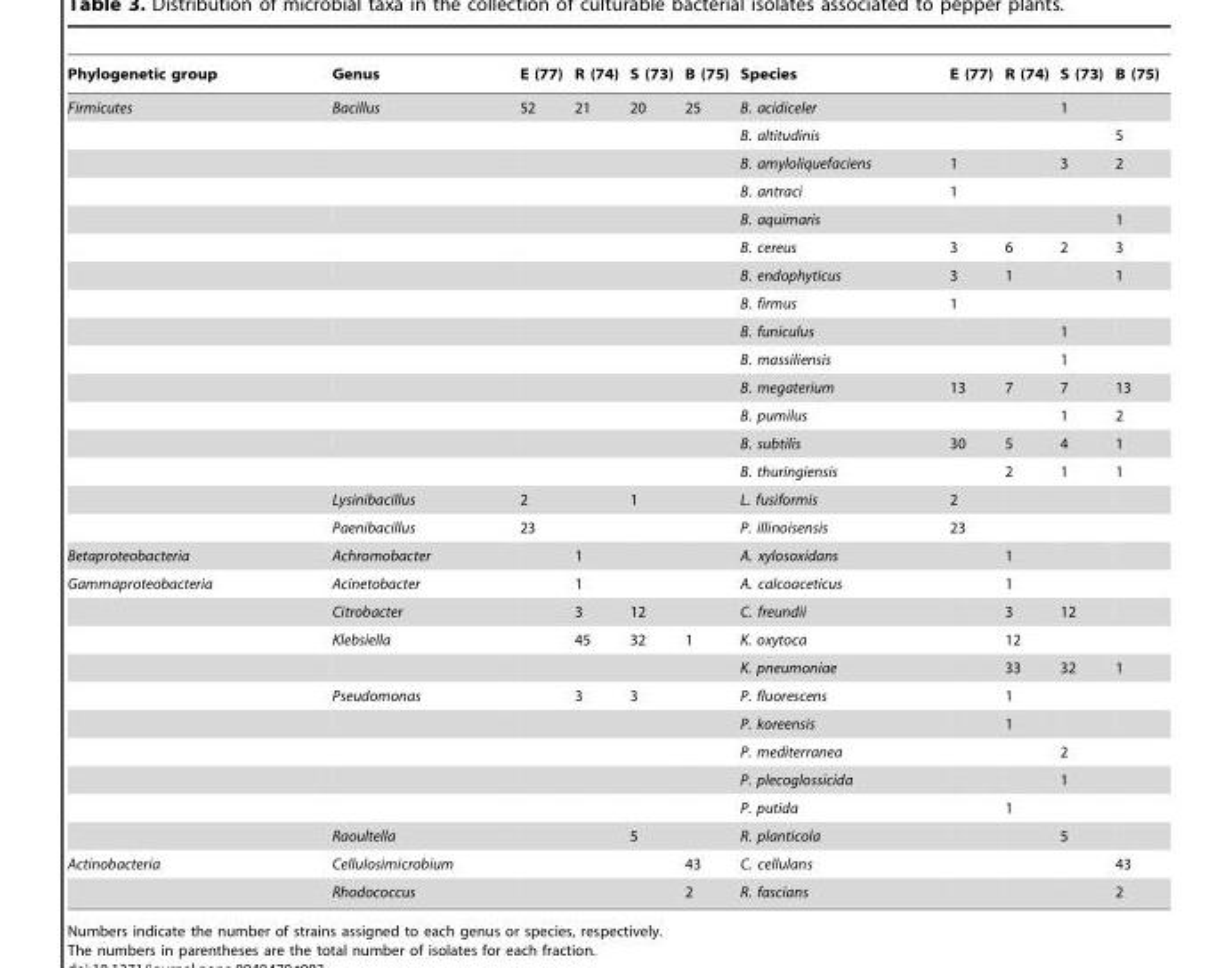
<table><thead><tr><td>Phylogenetic group</td><td>Genus</td><td>E (77)</td><td>R (74)</td><td>S (73)</td><td>B (75)</td><td>Species</td><td>E (77)</td><td>R (74)</td><td>S (73)</td><td>B (75)</td></tr></thead><tbody><tr><td rowspan="16">Firmicutes</td><td>Bacillus</td><td>52</td><td>21</td><td>20</td><td>25</td><td>B. acidiceler</td><td></td><td></td><td>1</td><td></td></tr><tr><td></td><td></td><td></td><td></td><td></td><td>B. altitudinis</td><td></td><td></td><td></td><td>5</td></tr><tr><td></td><td></td><td></td><td></td><td></td><td>B. amyloliquefaciens</td><td>1</td><td></td><td>3</td><td>2</td></tr><tr><td></td><td></td><td></td><td></td><td></td><td>B. antraci</td><td>1</td><td></td><td></td><td></td></tr><tr><td></td><td></td><td></td><td></td><td></td><td>B. aquimaris</td><td></td><td></td><td></td><td>1</td></tr><tr><td></td><td></td><td></td><td></td><td></td><td>B. cereus</td><td>3</td><td>6</td><td>2</td><td>3</td></tr><tr><td></td><td></td><td></td><td></td><td></td><td>B. endophyticus</td><td>3</td><td>1</td><td></td><td>1</td></tr><tr><td></td><td></td><td></td><td></td><td></td><td>B. firmus</td><td>1</td><td></td><td></td><td></td></tr><tr><td></td><td></td><td></td><td></td><td></td><td>B. funiculus</td><td></td><td></td><td>1</td><td></td></tr><tr><td></td><td></td><td></td><td></td><td></td><td>B. massiliensis</td><td></td><td></td><td>1</td><td></td></tr><tr><td></td><td></td><td></td><td></td><td></td><td>B. megaterium</td><td>13</td><td>7</td><td>7</td><td>13</td></tr><tr><td></td><td></td><td></td><td></td><td></td><td>B. pumilus</td><td></td><td></td><td>1</td><td>2</td></tr><tr><td></td><td></td><td></td><td></td><td></td><td>B. subtilis</td><td>30</td><td>5</td><td>4</td><td>1</td></tr><tr><td></td><td></td><td></td><td></td><td></td><td>B. thuringiensis</td><td></td><td>2</td><td>1</td><td>1</td></tr><tr><td>Lysinibacillus</td><td>2</td><td></td><td>1</td><td></td><td>L. fusiformis</td><td>2</td><td></td><td></td><td></td></tr><tr><td>Paenibacillus</td><td>23</td><td></td><td></td><td></td><td>P. illinoisensis</td><td>23</td><td></td><td></td><td></td></tr><tr><td>Betaproteobacteria</td><td>Achromobacter</td><td></td><td>1</td><td></td><td></td><td>A. xylosoxidans</td><td></td><td>1</td><td></td><td></td></tr><tr><td rowspan="10">Gammaproteobacteria</td><td>Acinetobacter</td><td></td><td>1</td><td></td><td></td><td>A. calcoaceticus</td><td></td><td>1</td><td></td><td></td></tr><tr><td>Citrobacter</td><td></td><td>3</td><td>12</td><td></td><td>C. freundii</td><td></td><td>3</td><td>12</td><td></td></tr><tr><td>Klebsiella</td><td></td><td>45</td><td>32</td><td>1</td><td>K. oxytoca</td><td></td><td>12</td><td></td><td></td></tr><tr><td></td><td></td><td></td><td></td><td></td><td>K. pneumoniae</td><td></td><td>33</td><td>32</td><td>1</td></tr><tr><td>Pseudomonas</td><td></td><td>3</td><td>3</td><td></td><td>P. fluorescens</td><td></td><td>1</td><td></td><td></td></tr><tr><td></td><td></td><td></td><td></td><td></td><td>P. koreensis</td><td></td><td>1</td><td></td><td></td></tr><tr><td></td><td></td><td></td><td></td><td></td><td>P. mediterranea</td><td></td><td></td><td>2</td><td></td></tr><tr><td></td><td></td><td></td><td></td><td></td><td>P. plecoglossicida</td><td></td><td></td><td colspan="2">1</td></tr><tr><td></td><td></td><td></td><td></td><td></td><td>P. putida</td><td></td><td>1</td><td></td><td></td></tr><tr><td>Raoultella</td><td></td><td></td><td>5</td><td></td><td>R. planticola</td><td></td><td></td><td>5</td><td></td></tr><tr><td rowspan="2">Actinobacteria</td><td>Cellulosimicrobium</td><td></td><td></td><td></td><td>43</td><td>C. cellulans</td><td></td><td></td><td></td><td>43</td></tr><tr><td>Rhodococcus</td><td></td><td></td><td></td><td>2</td><td>R. fascians</td><td></td><td></td><td></td><td>2</td></tr></tbody></table>